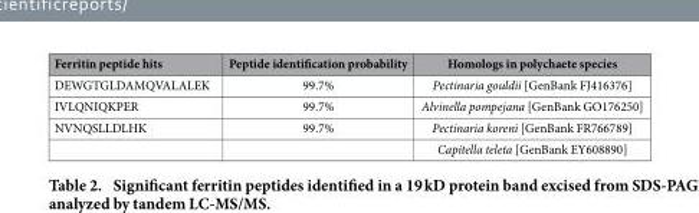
<table><thead><tr><td>Ferritin peptide hits</td><td>Peptide identification probability</td><td>Homologs in polychaete species</td></tr></thead><tbody><tr><td>DEWGTGLDAMQVALALEK</td><td>99.7%</td><td>Pectinaria gouldii [GenBank FJ416376]</td></tr><tr><td>IVLQNIQKPER</td><td>99.7%</td><td>Alvinella pompejana [GenBank GO176250]</td></tr><tr><td rowspan="2">NVNQSLLDLHK</td><td>99.7%</td><td>Pectinaria koreni [GenBank FR766789]</td></tr><tr><td></td><td>Capitella teleta [GenBank EY608890]</td></tr></tbody></table>